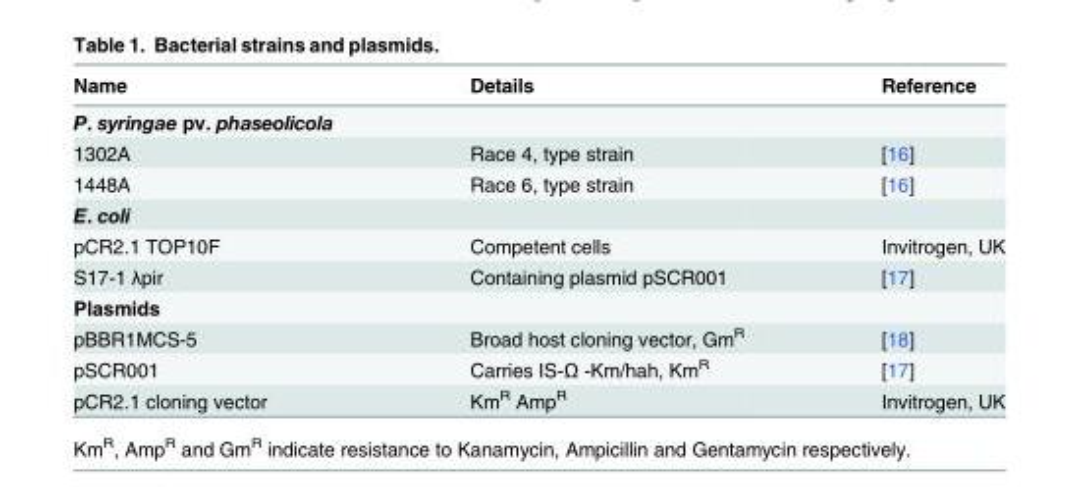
<table><thead><tr><td>Name</td><td>Details</td><td>Reference</td></tr></thead><tbody><tr><td colspan="3">P. syringae pv. phaseolicola</td></tr><tr><td>1302A</td><td>Race 4, type strain</td><td>[16]</td></tr><tr><td>1448A</td><td>Race 6, type strain</td><td>[16]</td></tr><tr><td colspan="3">E. coli</td></tr><tr><td>pCR2.1 TOP10F</td><td>Competent cells</td><td>Invitrogen, UK</td></tr><tr><td>S17-1 λpir</td><td>Containing plasmid pSCR001</td><td>[17]</td></tr><tr><td colspan="3">Plasmids</td></tr><tr><td>pBBR1MCS-5</td><td>Broad host cloning vector, Gm<sup>R</sup></td><td>[18]</td></tr><tr><td>pSCR001</td><td>Carries IS-Ω -Km/hah, Km<sup>R</sup></td><td>[17]</td></tr><tr><td>pCR2.1 cloning vector</td><td>Km<sup>R</sup> Amp<sup>R</sup></td><td>Invitrogen, UK</td></tr></tbody></table>